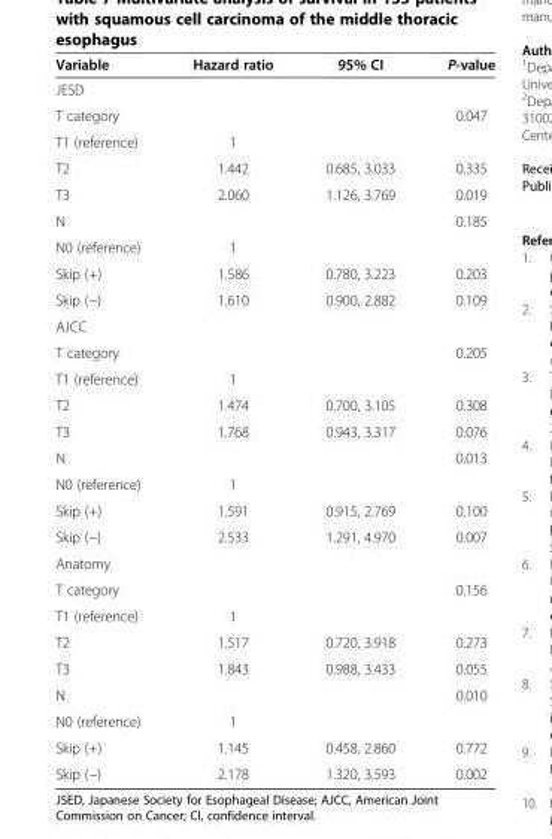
<table><thead><tr><td>Variable</td><td>Hazard ratio</td><td>95% CI</td><td>P-value</td></tr></thead><tbody><tr><td colspan="4">JESD</td></tr><tr><td>T category</td><td></td><td></td><td>0.047</td></tr><tr><td>T1 (reference)</td><td>1</td><td></td><td></td></tr><tr><td>T2</td><td>1.442</td><td>0.685, 3.033</td><td>0.335</td></tr><tr><td>T3</td><td>2.060</td><td>1.126, 3.769</td><td>0.019</td></tr><tr><td>N</td><td></td><td></td><td>0.185</td></tr><tr><td>N0 (reference)</td><td>1</td><td></td><td></td></tr><tr><td>Skip (+)</td><td>1.586</td><td>0.780, 3.223</td><td>0.203</td></tr><tr><td>Skip (−)</td><td>1.610</td><td>0.900, 2.882</td><td>0.109</td></tr><tr><td colspan="4">AJCC</td></tr><tr><td>T category</td><td></td><td></td><td>0.205</td></tr><tr><td>T1 (reference)</td><td>1</td><td></td><td></td></tr><tr><td>T2</td><td>1.474</td><td>0.700, 3.105</td><td>0.308</td></tr><tr><td>T3</td><td>1.768</td><td>0.943, 3.317</td><td>0.076</td></tr><tr><td>N</td><td></td><td></td><td>0.013</td></tr><tr><td>N0 (reference)</td><td>1</td><td></td><td></td></tr><tr><td>Skip (+)</td><td>1.591</td><td>0.915, 2.769</td><td>0.100</td></tr><tr><td>Skip (−)</td><td>2.533</td><td>1.291, 4.970</td><td>0.007</td></tr><tr><td colspan="4">Anatomy</td></tr><tr><td>T category</td><td></td><td></td><td>0.156</td></tr><tr><td>T1 (reference)</td><td>1</td><td></td><td></td></tr><tr><td>T2</td><td>1.517</td><td>0.720, 3.918</td><td>0.273</td></tr><tr><td>T3</td><td>1.843</td><td>0.988, 3.433</td><td>0.055</td></tr><tr><td>N</td><td></td><td></td><td>0.010</td></tr><tr><td>N0 (reference)</td><td>1</td><td></td><td></td></tr><tr><td>Skip (+)</td><td>1.145</td><td>0.458, 2.860</td><td>0.772</td></tr><tr><td>Skip (−)</td><td>2.178</td><td>1.320, 3.593</td><td>0.002</td></tr></tbody></table>